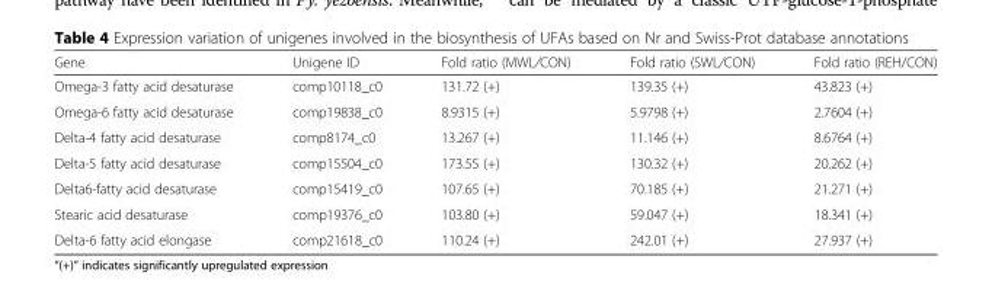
<table><thead><tr><td>Gene</td><td>Unigene ID</td><td>Fold ratio (MWL/CON)</td><td>Fold ratio (SWL/CON)</td><td>Fold ratio (REH/CON)</td></tr></thead><tbody><tr><td>Omega-3 fatty acid desaturase</td><td>comp10118_c0</td><td>131.72 (+)</td><td>139.35 (+)</td><td>43.823 (+)</td></tr><tr><td>Omega-6 fatty acid desaturase</td><td>comp19838_c0</td><td>8.9315 (+)</td><td>5.9798 (+)</td><td>2.7604 (+)</td></tr><tr><td>Delta-4 fatty acid desaturase</td><td>comp8174_c0</td><td>13.267 (+)</td><td>11.146 (+)</td><td>8.6764 (+)</td></tr><tr><td>Delta-5 fatty acid desaturase</td><td>comp15504_c0</td><td>173.55 (+)</td><td>130.32 (+)</td><td>20.262 (+)</td></tr><tr><td>Delta6-fatty acid desaturase</td><td>comp15419_c0</td><td>107.65 (+)</td><td>70.185 (+)</td><td>21.271 (+)</td></tr><tr><td>Stearic acid desaturase</td><td>comp19376_c0</td><td>103.80 (+)</td><td>59.047 (+)</td><td>18.341 (+)</td></tr><tr><td>Delta-6 fatty acid elongase</td><td>comp21618_c0</td><td>110.24 (+)</td><td>242.01 (+)</td><td>27.937 (+)</td></tr></tbody></table>